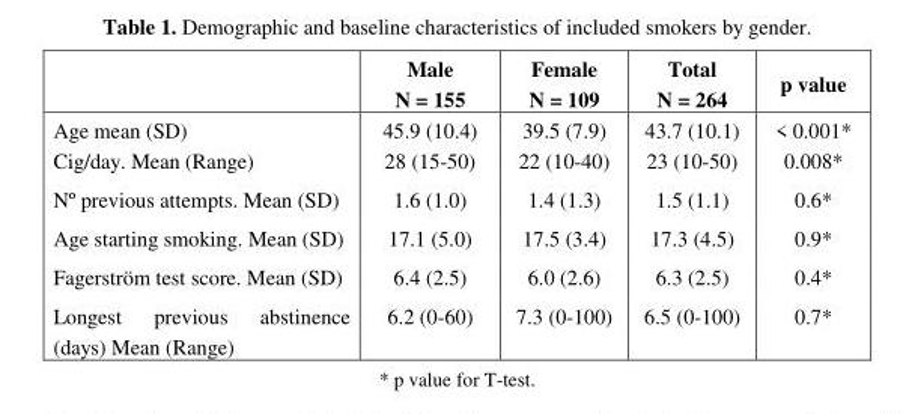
<table><thead><tr><td></td><td>Male N = 155</td><td>Female N = 109</td><td>Total N = 264</td><td>p value</td></tr></thead><tbody><tr><td>Age mean (SD)</td><td>45.9 (10.4)</td><td>39.5 (7.9)</td><td>43.7 (10.1)</td><td>&lt; 0.001*</td></tr><tr><td>Cig/day. Mean (Range)</td><td>28 (15-50)</td><td>22 (10-40)</td><td>23 (10-50)</td><td>0.008*</td></tr><tr><td>Nº previous attempts. Mean (SD)</td><td>1.6 (1.0)</td><td>1.4 (1.3)</td><td>1.5 (1.1)</td><td>0.6*</td></tr><tr><td>Age starting smoking. Mean (SD)</td><td>17.1 (5.0)</td><td>17.5 (3.4)</td><td>17.3 (4.5)</td><td>0.9*</td></tr><tr><td>Fagerström test score. Mean (SD)</td><td>6.4 (2.5)</td><td>6.0 (2.6)</td><td>6.3 (2.5)</td><td>0.4*</td></tr><tr><td>Longest previous abstinence (days) Mean (Range)</td><td>6.2 (0-60)</td><td>7.3 (0-100)</td><td>6.5 (0-100)</td><td>0.7*</td></tr></tbody></table>